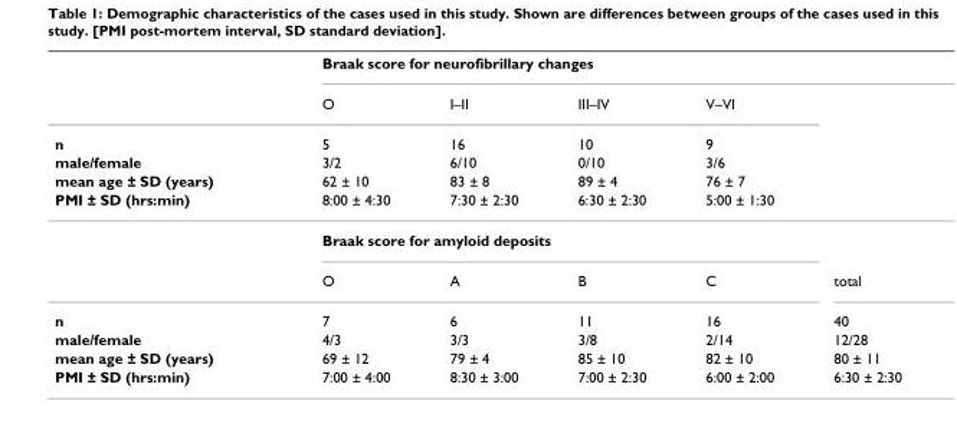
<table><thead><tr><td rowspan="6">n male/female mean age ± SD (years) PMI ± SD (hrs:min)</td><td colspan="4">Braak score for neurofibrillary changes</td><td rowspan="6"></td></tr><tr><td rowspan="5">O 5 3/2 62 ± 10 8:00 ± 4:30</td><td rowspan="5">I–II 16 6/10 83 ± 8 7:30 ± 2:30</td><td rowspan="5">III–IV 10 0/10 89 ± 4 6:30 ± 2:30</td><td rowspan="5">V–VI 9 3/6 76 ± 7 5:00 ± 1:30</td></tr><tr></tr><tr></tr><tr></tr><tr></tr></thead><tbody><tr><td></td><td colspan="4">Braak score for amyloid deposits</td><td></td></tr><tr><td></td><td>O</td><td>A</td><td>B</td><td>C</td><td>total</td></tr><tr><td>n</td><td>7</td><td>6</td><td>11</td><td>16</td><td>40</td></tr><tr><td>male/female</td><td>4/3</td><td>3/3</td><td>3/8</td><td>2/14</td><td>12/28</td></tr><tr><td>mean age ± SD (years)</td><td>69 ± 12</td><td>79 ± 4</td><td>85 ± 10</td><td>82 ± 10</td><td>80 ± 11</td></tr><tr><td>PMI ± SD (hrs:min)</td><td>7:00 ± 4:00</td><td>8:30 ± 3:00</td><td>7:00 ± 2:30</td><td>6:00 ± 2:00</td><td>6:30 ± 2:30</td></tr></tbody></table>